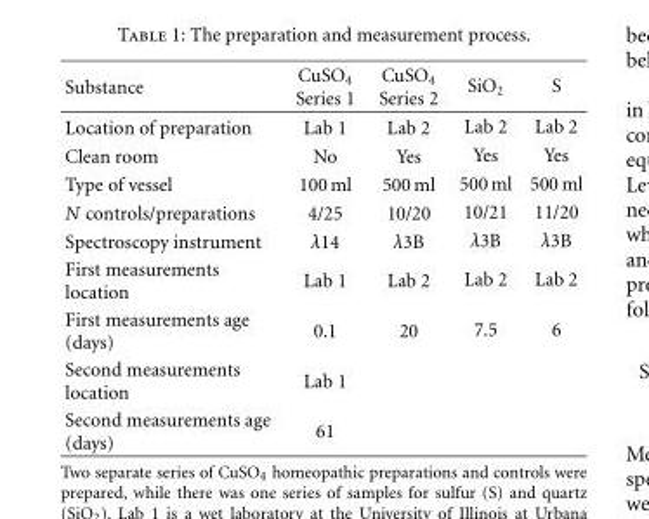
<table><thead><tr><td>Substance</td><td>CuSO<sub>4</sub> Series 1</td><td>CuSO<sub>4</sub> Series 2</td><td>SiO<sub>2</sub></td><td>S</td></tr></thead><tbody><tr><td>Location of preparation</td><td>Lab 1</td><td>Lab 2</td><td>Lab 2</td><td>Lab 2</td></tr><tr><td>Clean room</td><td>No</td><td>Yes</td><td>Yes</td><td>Yes</td></tr><tr><td>Type of vessel</td><td>100 ml</td><td>500 ml</td><td>500 ml</td><td>500 ml</td></tr><tr><td>N controls/preparations</td><td>4/25</td><td>10/20</td><td>10/21</td><td>11/20</td></tr><tr><td>Spectroscopy instrument</td><td>λ14</td><td>λ3B</td><td>λ3B</td><td>λ3B</td></tr><tr><td>First measurements location</td><td>Lab 1</td><td>Lab 2</td><td>Lab 2</td><td>Lab 2</td></tr><tr><td>First measurements age (days)</td><td>0.1</td><td>20</td><td>7.5</td><td>6</td></tr><tr><td>Second measurements location</td><td>Lab 1</td><td></td><td></td><td></td></tr><tr><td>Second measurements age (days)</td><td>61</td><td></td><td></td><td></td></tr></tbody></table>